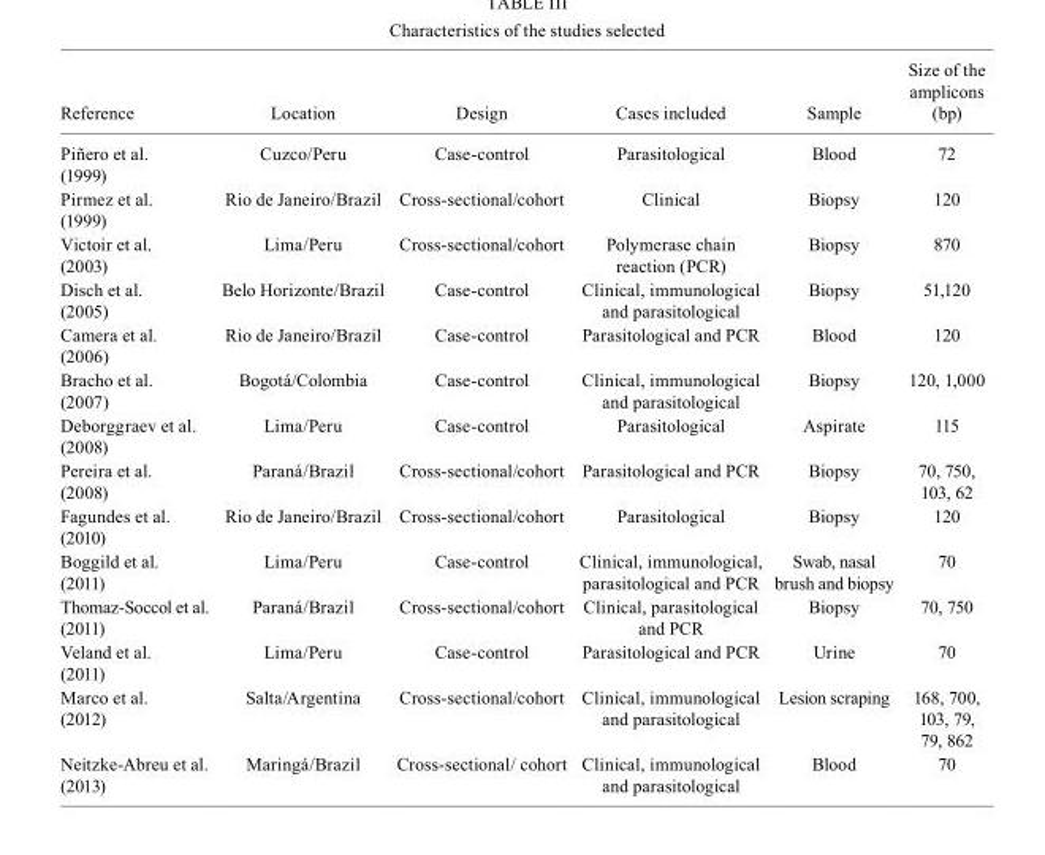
<table><thead><tr><td>Reference</td><td>Location</td><td>Design</td><td>Cases included</td><td>Sample</td><td>Size of the amplicons (bp)</td></tr></thead><tbody><tr><td>Piñero et al. (1999)</td><td>Cuzco/Peru</td><td>Case-control</td><td>Parasitological</td><td>Blood</td><td>72</td></tr><tr><td>Pirmez et al. (1999)</td><td>Rio de Janeiro/Brazil</td><td>Cross-sectional/cohort</td><td>Clinical</td><td>Biopsy</td><td>120</td></tr><tr><td>Victoir et al. (2003)</td><td>Lima/Peru</td><td>Cross-sectional/cohort</td><td>Polymerase chain reaction (PCR)</td><td>Biopsy</td><td>870</td></tr><tr><td>Disch et al. (2005)</td><td>Belo Horizonte/Brazil</td><td>Case-control</td><td>Clinical, immunological and parasitological</td><td>Biopsy</td><td>51,120</td></tr><tr><td>Camera et al. (2006)</td><td>Rio de Janeiro/Brazil</td><td>Case-control</td><td>Parasitological and PCR</td><td>Blood</td><td>120</td></tr><tr><td>Bracho et al. (2007)</td><td>Bogotá/Colombia</td><td>Case-control</td><td>Clinical, immunological and parasitological</td><td>Biopsy</td><td>120, 1,000</td></tr><tr><td>Deborggraev et al. (2008)</td><td>Lima/Peru</td><td>Case-control</td><td>Parasitological</td><td>Aspirate</td><td>115</td></tr><tr><td>Pereira et al. (2008)</td><td>Paraná/Brazil</td><td>Cross-sectional/cohort</td><td>Parasitological and PCR</td><td>Biopsy</td><td>70, 750, 103, 62</td></tr><tr><td>Fagundes et al. (2010)</td><td>Rio de Janeiro/Brazil</td><td>Cross-sectional/cohort</td><td>Parasitological</td><td>Biopsy</td><td>120</td></tr><tr><td>Boggild et al. (2011)</td><td>Lima/Peru</td><td>Case-control</td><td>Clinical, immunological, parasitological and PCR</td><td>Swab, nasal brush and biopsy</td><td>70</td></tr><tr><td>Thomaz-Soccol et al. (2011)</td><td>Paraná/Brazil</td><td>Cross-sectional/cohort</td><td>Clinical, parasitological and PCR</td><td>Biopsy</td><td>70, 750</td></tr><tr><td>Veland et al. (2011)</td><td>Lima/Peru</td><td>Case-control</td><td>Parasitological and PCR</td><td>Urine</td><td>70</td></tr><tr><td>Marco et al. (2012)</td><td>Salta/Argentina</td><td>Cross-sectional/cohort</td><td>Clinical, immunological and parasitological</td><td>Lesion scraping</td><td>168, 700, 103, 79, 79, 862</td></tr><tr><td>Neitzke-Abreu et al. (2013)</td><td>Maringá/Brazil</td><td>Cross-sectional/ cohort</td><td>Clinical, immunological and parasitological</td><td>Blood</td><td>70</td></tr></tbody></table>